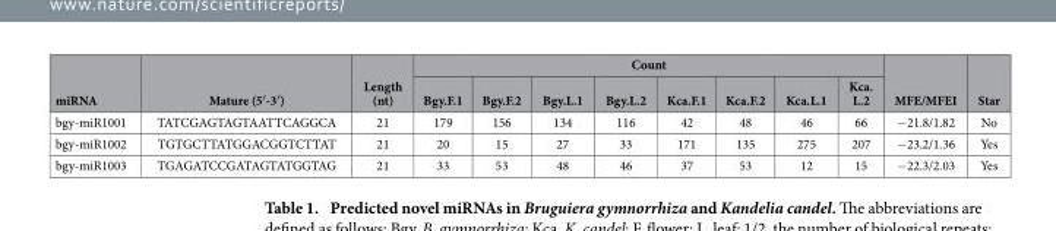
<table><thead><tr><td rowspan="2">miRNA</td><td rowspan="2">Mature (5′ -3′ )</td><td rowspan="2">Length (nt)</td><td colspan="8">Count</td><td rowspan="2">MFE/MFEI</td><td rowspan="2">Star</td></tr><tr><td>Bgy.F.1</td><td>Bgy.F.2</td><td>Bgy.L.1</td><td>Bgy.L.2</td><td>Kca.F.1</td><td>Kca.F.2</td><td>Kca.L.1</td><td>Kca. L.2</td></tr></thead><tbody><tr><td>bgy-miR1001</td><td>TATCGAGTAGTAATTCAGGCA</td><td>21</td><td>179</td><td>156</td><td>134</td><td>116</td><td>42</td><td>48</td><td>46</td><td>66</td><td>− 21.8/1.82</td><td>No</td></tr><tr><td>bgy-miR1002</td><td>TGTGCTTATGGACGGTCTTAT</td><td>21</td><td>20</td><td>15</td><td>27</td><td>33</td><td>171</td><td>135</td><td>275</td><td>207</td><td>− 23.2/1.36</td><td>Yes</td></tr><tr><td>bgy-miR1003</td><td>TGAGATCCGATAGTATGGTAG</td><td>21</td><td>33</td><td>53</td><td>48</td><td>46</td><td>37</td><td>53</td><td>12</td><td>15</td><td>− 22.3/2.03</td><td>Yes</td></tr></tbody></table>